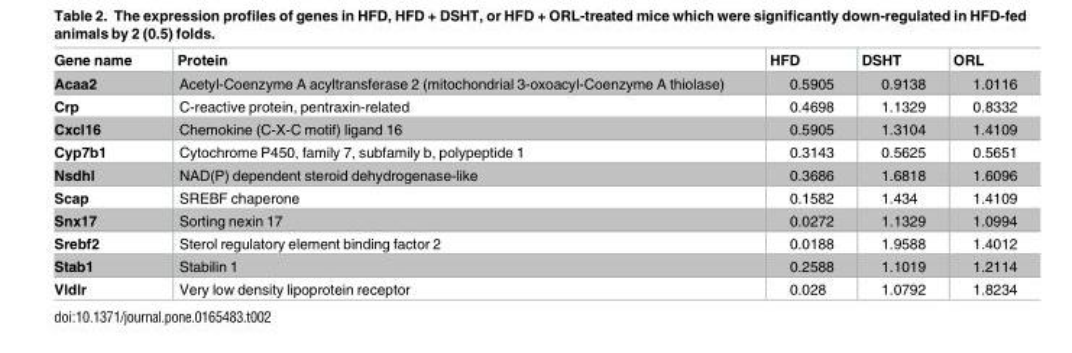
<table><thead><tr><td>Gene name</td><td>Protein</td><td>HFD</td><td>DSHT</td><td>ORL</td></tr></thead><tbody><tr><td>Acaa2</td><td>Acetyl-Coenzyme A acyltransferase 2 (mitochondrial 3-oxoacyl-Coenzyme A thiolase)</td><td>0.5905</td><td>0.9138</td><td>1.0116</td></tr><tr><td>Crp</td><td>C-reactive protein, pentraxin-related</td><td>0.4698</td><td>1.1329</td><td>0.8332</td></tr><tr><td>Cxcl16</td><td>Chemokine (C-X-C motif) ligand 16</td><td>0.5905</td><td>1.3104</td><td>1.4109</td></tr><tr><td>Cyp7b1</td><td>Cytochrome P450, family 7, subfamily b, polypeptide 1</td><td>0.3143</td><td>0.5625</td><td>0.5651</td></tr><tr><td>Nsdhl</td><td>NAD(P) dependent steroid dehydrogenase-like</td><td>0.3686</td><td>1.6818</td><td>1.6096</td></tr><tr><td>Scap</td><td>SREBF chaperone</td><td>0.1582</td><td>1.434</td><td>1.4109</td></tr><tr><td>Snx17</td><td>Sorting nexin 17</td><td>0.0272</td><td>1.1329</td><td>1.0994</td></tr><tr><td>Srebf2</td><td>Sterol regulatory element binding factor 2</td><td>0.0188</td><td>1.9588</td><td>1.4012</td></tr><tr><td>Stab1</td><td>Stabilin 1</td><td>0.2588</td><td>1.1019</td><td>1.2114</td></tr><tr><td>Vldlr</td><td>Very low density lipoprotein receptor</td><td>0.028</td><td>1.0792</td><td>1.8234</td></tr></tbody></table>